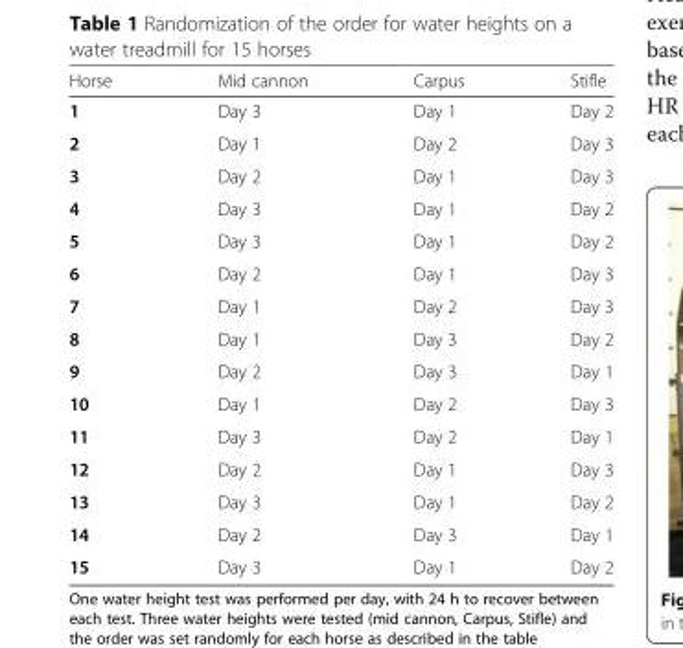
<table><thead><tr><td>Horse</td><td>Mid cannon</td><td>Carpus</td><td>Stifle</td></tr></thead><tbody><tr><td>1</td><td>Day 3</td><td>Day 1</td><td>Day 2</td></tr><tr><td>2</td><td>Day 1</td><td>Day 2</td><td>Day 3</td></tr><tr><td>3</td><td>Day 2</td><td>Day 1</td><td>Day 3</td></tr><tr><td>4</td><td>Day 3</td><td>Day 1</td><td>Day 2</td></tr><tr><td>5</td><td>Day 3</td><td>Day 1</td><td>Day 2</td></tr><tr><td>6</td><td>Day 2</td><td>Day 1</td><td>Day 3</td></tr><tr><td>7</td><td>Day 1</td><td>Day 2</td><td>Day 3</td></tr><tr><td>8</td><td>Day 1</td><td>Day 3</td><td>Day 2</td></tr><tr><td>9</td><td>Day 2</td><td>Day 3</td><td>Day 1</td></tr><tr><td>10</td><td>Day 1</td><td>Day 2</td><td>Day 3</td></tr><tr><td>11</td><td>Day 3</td><td>Day 2</td><td>Day 1</td></tr><tr><td>12</td><td>Day 2</td><td>Day 1</td><td>Day 3</td></tr><tr><td>13</td><td>Day 3</td><td>Day 1</td><td>Day 2</td></tr><tr><td>14</td><td>Day 2</td><td>Day 3</td><td>Day 1</td></tr><tr><td>15</td><td>Day 3</td><td>Day 1</td><td>Day 2</td></tr></tbody></table>